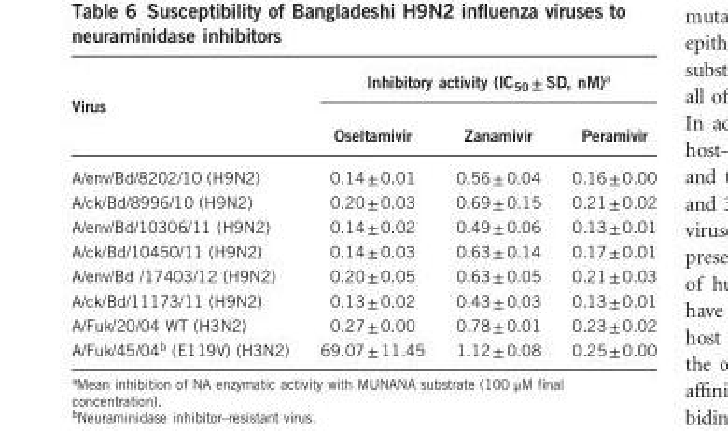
<table><thead><tr><td rowspan="2">Virus</td><td colspan="3">Inhibitory activity (IC<sub>50</sub> ± SD, nM)<sup>a</sup></td></tr><tr><td>Oseltamivir</td><td>Zanamivir</td><td>Peramivir</td></tr></thead><tbody><tr><td>A/env/Bd/8202/10 (H9N2)</td><td>0.14± 0.01</td><td>0.56± 0.04</td><td>0.16± 0.00</td></tr><tr><td>A/ck/Bd/8996/10 (H9N2)</td><td>0.20± 0.03</td><td>0.69± 0.15</td><td>0.21± 0.02</td></tr><tr><td>A/env/Bd/10306/11 (H9N2)</td><td>0.14± 0.02</td><td>0.49± 0.06</td><td>0.13± 0.01</td></tr><tr><td>A/ck/Bd/10450/11 (H9N2)</td><td>0.14± 0.03</td><td>0.63± 0.14</td><td>0.17± 0.01</td></tr><tr><td>A/env/Bd /17403/12 (H9N2)</td><td>0.20± 0.05</td><td>0.63± 0.05</td><td>0.21± 0.03</td></tr><tr><td>A/ck/Bd/11173/11 (H9N2)</td><td>0.13± 0.02</td><td>0.43± 0.03</td><td>0.13± 0.01</td></tr><tr><td>A/Fuk/20/04 WT (H3N2)</td><td>0.27± 0.00</td><td>0.78± 0.01</td><td>0.23± 0.02</td></tr><tr><td>A/Fuk/45/04<sup>b</sup> (E119V) (H3N2)</td><td>69.07 ± 11.45</td><td>1.12± 0.08</td><td>0.25± 0.00</td></tr></tbody></table>